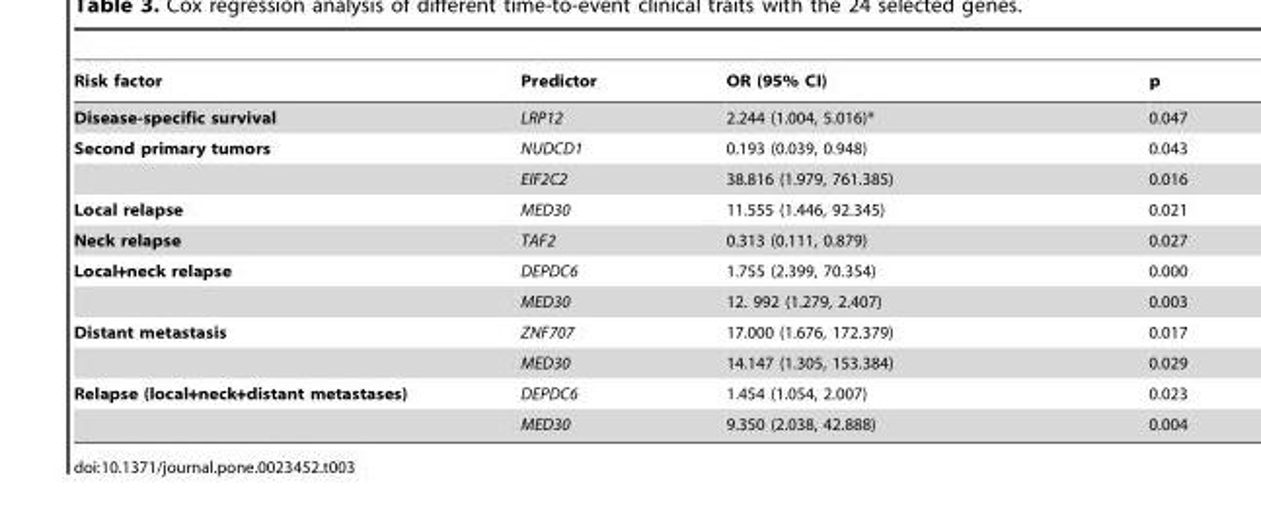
<table><thead><tr><td>Risk factor</td><td>Predictor</td><td>OR (95% CI)</td><td>p</td></tr></thead><tbody><tr><td>Disease-specific survival</td><td>LRP12</td><td>2.244 (1.004, 5.016)*</td><td>0.047</td></tr><tr><td rowspan="2">Second primary tumors</td><td>NUDCD1</td><td>0.193 (0.039, 0.948)</td><td>0.043</td></tr><tr><td>EIF2C2</td><td>38.816 (1.979, 761.385)</td><td>0.016</td></tr><tr><td>Local relapse</td><td>MED30</td><td>11.555 (1.446, 92.345)</td><td>0.021</td></tr><tr><td>Neck relapse</td><td>TAF2</td><td>0.313 (0.111, 0.879)</td><td>0.027</td></tr><tr><td rowspan="2">Local+neck relapse</td><td>DEPDC6</td><td>1.755 (2.399, 70.354)</td><td>0.000</td></tr><tr><td>MED30</td><td>12. 992 (1.279, 2.407)</td><td>0.003</td></tr><tr><td rowspan="2">Distant metastasis</td><td>ZNF707</td><td>17.000 (1.676, 172.379)</td><td>0.017</td></tr><tr><td>MED30</td><td>14.147 (1.305, 153.384)</td><td>0.029</td></tr><tr><td rowspan="2">Relapse (local+neck+distant metastases)</td><td>DEPDC6</td><td>1.454 (1.054, 2.007)</td><td>0.023</td></tr><tr><td>MED30</td><td>9.350 (2.038, 42.888)</td><td>0.004</td></tr></tbody></table>